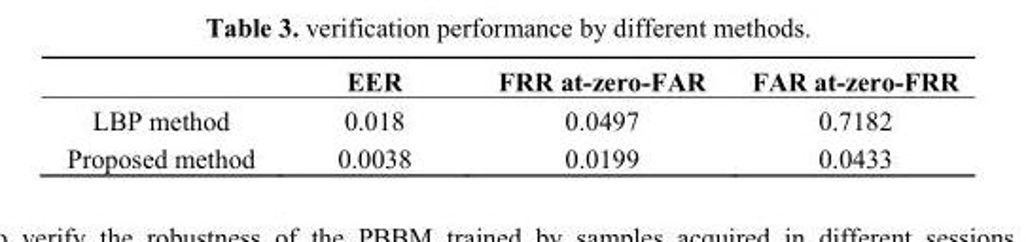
<table><thead><tr><td></td><td>EER</td><td>FRR at-zero-FAR</td><td>FAR at-zero-FRR</td></tr></thead><tbody><tr><td>LBP method</td><td>0.018</td><td>0.0497</td><td>0.7182</td></tr><tr><td>Proposed method</td><td>0.0038</td><td>0.0199</td><td>0.0433</td></tr></tbody></table>